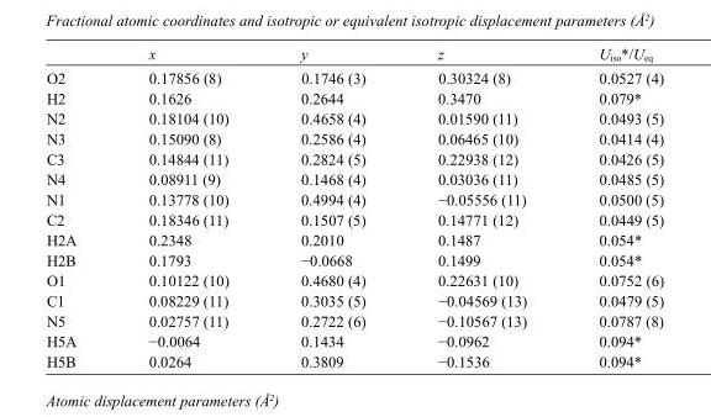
<table><thead><tr><td></td><td>x</td><td>y</td><td>z</td><td>U<sub>iso</sub>*/U<sub>eq</sub></td></tr></thead><tbody><tr><td>O2</td><td>0.17856 (8)</td><td>0.1746 (3)</td><td>0.30324 (8)</td><td>0.0527 (4)</td></tr><tr><td>H2</td><td>0.1626</td><td>0.2644</td><td>0.3470</td><td>0.079*</td></tr><tr><td>N2</td><td>0.18104 (10)</td><td>0.4658 (4)</td><td>0.01590 (11)</td><td>0.0493 (5)</td></tr><tr><td>N3</td><td>0.15090 (8)</td><td>0.2586 (4)</td><td>0.06465 (10)</td><td>0.0414 (4)</td></tr><tr><td>C3</td><td>0.14844 (11)</td><td>0.2824 (5)</td><td>0.22938 (12)</td><td>0.0426 (5)</td></tr><tr><td>N4</td><td>0.08911 (9)</td><td>0.1468 (4)</td><td>0.03036 (11)</td><td>0.0485 (5)</td></tr><tr><td>N1</td><td>0.13778 (10)</td><td>0.4994 (4)</td><td>−0.05556 (11)</td><td>0.0500 (5)</td></tr><tr><td>C2</td><td>0.18346 (11)</td><td>0.1507 (5)</td><td>0.14771 (12)</td><td>0.0449 (5)</td></tr><tr><td>H2A</td><td>0.2348</td><td>0.2010</td><td>0.1487</td><td>0.054*</td></tr><tr><td>H2B</td><td>0.1793</td><td>−0.0668</td><td>0.1499</td><td>0.054*</td></tr><tr><td>O1</td><td>0.10122 (10)</td><td>0.4680 (4)</td><td>0.22631 (10)</td><td>0.0752 (6)</td></tr><tr><td>C1</td><td>0.08229 (11)</td><td>0.3035 (5)</td><td>−0.04569 (13)</td><td>0.0479 (5)</td></tr><tr><td>N5</td><td>0.02757 (11)</td><td>0.2722 (6)</td><td>−0.10567 (13)</td><td>0.0787 (8)</td></tr><tr><td>H5A</td><td>−0.0064</td><td>0.1434</td><td>−0.0962</td><td>0.094*</td></tr><tr><td>H5B</td><td>0.0264</td><td>0.3809</td><td>−0.1536</td><td>0.094*</td></tr></tbody></table>